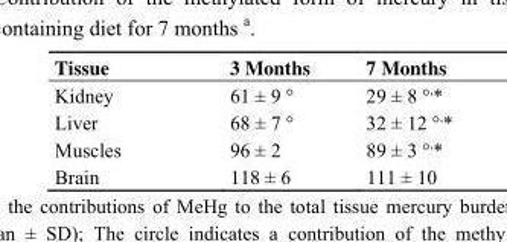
<table><thead><tr><td>Tissue</td><td>3 Months</td><td>7 Months</td></tr></thead><tbody><tr><td>Kidney</td><td>61 ± 9 °</td><td>29 ± 8 °,*</td></tr><tr><td>Liver</td><td>68 ± 7 °</td><td>32 ± 12 °<sup>,*</sup></td></tr><tr><td>Muscles</td><td>96 ± 2</td><td>89 ± 3 °<sup>,*</sup></td></tr><tr><td>Brain</td><td>118 ± 6</td><td>111 ± 10</td></tr></tbody></table>